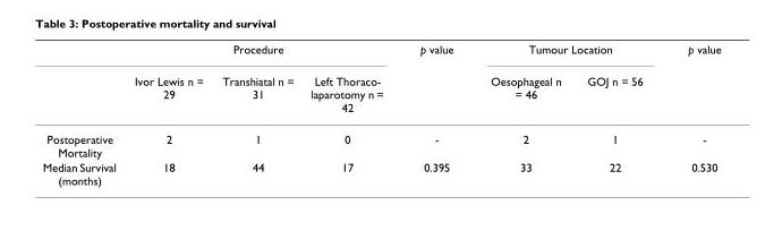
<table><thead><tr><td rowspan="2"></td><td colspan="3">Procedure</td><td rowspan="2">p value</td><td colspan="2">Tumour Location</td><td rowspan="2">p value</td></tr><tr><td>Ivor Lewis n = 29</td><td>Transhiatal n = 31</td><td>Left Thoraco- laparotomy n = 42</td><td>Oesophageal n = 46</td><td>GOJ n = 56</td></tr></thead><tbody><tr><td>Postoperative Mortality</td><td>2</td><td>1</td><td>0</td><td>-</td><td>2</td><td>1</td><td>-</td></tr><tr><td>Median Survival (months)</td><td>18</td><td>44</td><td>17</td><td>0.395</td><td>33</td><td>22</td><td>0.530</td></tr></tbody></table>